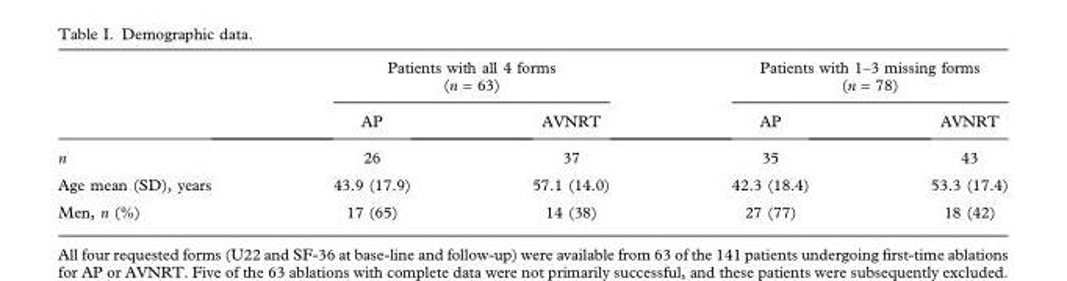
<table><thead><tr><td rowspan="2"></td><td colspan="2">Patients with all 4 forms (n = 63)</td><td colspan="2">Patients with 1–3 missing forms (n = 78)</td></tr><tr><td>AP</td><td>AVNRT</td><td>AP</td><td>AVNRT</td></tr></thead><tbody><tr><td>n</td><td>26</td><td>37</td><td>35</td><td>43</td></tr><tr><td>Age mean (SD), years</td><td>43.9 (17.9)</td><td>57.1 (14.0)</td><td>42.3 (18.4)</td><td>53.3 (17.4)</td></tr><tr><td>Men, n (%)</td><td>17 (65)</td><td>14 (38)</td><td>27 (77)</td><td>18 (42)</td></tr></tbody></table>